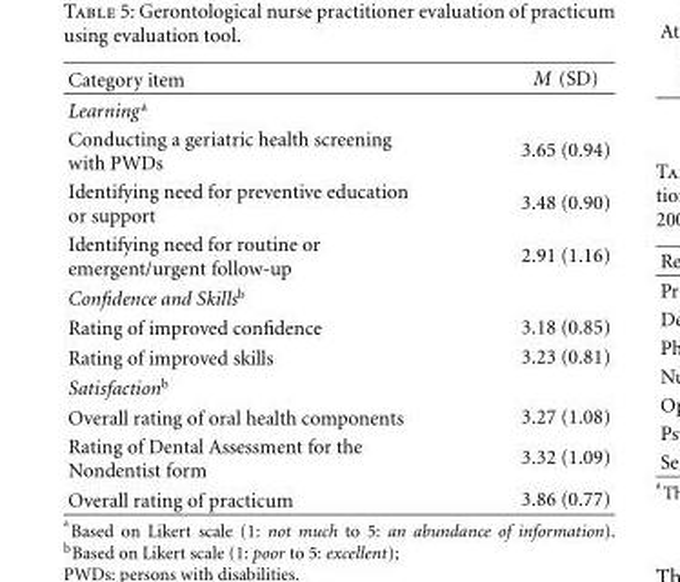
<table><thead><tr><td>Category item</td><td>M (SD)</td></tr></thead><tbody><tr><td colspan="2">Learning<sup>a</sup></td></tr><tr><td>Conducting a geriatric health screening with PWDs</td><td>3.65 (0.94)</td></tr><tr><td>Identifying need for preventive education or support</td><td>3.48 (0.90)</td></tr><tr><td>Identifying need for routine or emergent/urgent follow-up</td><td>2.91 (1.16)</td></tr><tr><td colspan="2">Confidence and Skills<sup>b</sup></td></tr><tr><td>Rating of improved confidence</td><td>3.18 (0.85)</td></tr><tr><td>Rating of improved skills</td><td>3.23 (0.81)</td></tr><tr><td colspan="2">Satisfaction<sup>b</sup></td></tr><tr><td>Overall rating of oral health components</td><td>3.27 (1.08)</td></tr><tr><td>Rating of Dental Assessment for the Nondentist form</td><td>3.32 (1.09)</td></tr><tr><td>Overall rating of practicum</td><td>3.86 (0.77)</td></tr></tbody></table>